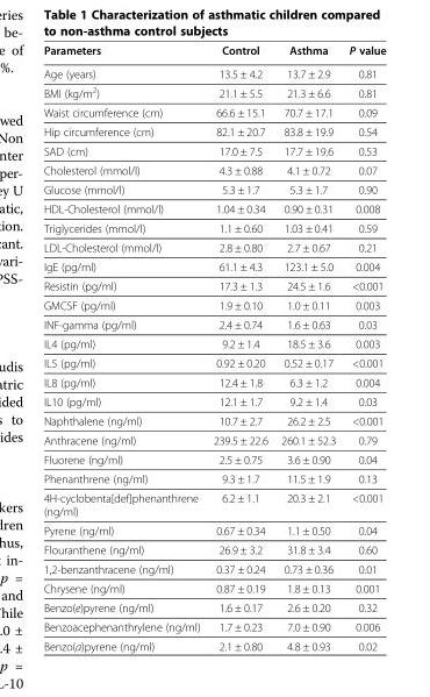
<table><thead><tr><td>Parameters</td><td>Control</td><td>Asthma</td><td>P value</td></tr></thead><tbody><tr><td>Age (years)</td><td>13.5 ± 4.2</td><td>13.7 ± 2.9</td><td>0.81</td></tr><tr><td>BMI (kg/m<sup>2</sup>)</td><td>21.1 ± 5.5</td><td>21.3 ± 6.6</td><td>0.81</td></tr><tr><td>Waist circumference (cm)</td><td>66.6 ± 15.1</td><td>70.7 ± 17.1</td><td>0.09</td></tr><tr><td>Hip circumference (cm)</td><td>82.1 ± 20.7</td><td>83.8 ± 19.9</td><td>0.54</td></tr><tr><td>SAD (cm)</td><td>17.0 ± 7.5</td><td>17.7 ± 19.6</td><td>0.53</td></tr><tr><td>Cholesterol (mmol/l)</td><td>4.3 ± 0.88</td><td>4.1 ± 0.72</td><td>0.07</td></tr><tr><td>Glucose (mmol/l)</td><td>5.3 ± 1.7</td><td>5.3 ± 1.7</td><td>0.90</td></tr><tr><td>HDL-Cholesterol (mmol/l)</td><td>1.04 ± 0.34</td><td>0.90 ± 0.31</td><td>0.008</td></tr><tr><td>Triglycerides (mmol/l)</td><td>1.1 ± 0.60</td><td>1.03 ± 0.41</td><td>0.59</td></tr><tr><td>LDL-Cholesterol (mmol/l)</td><td>2.8 ± 0.80</td><td>2.7 ± 0.67</td><td>0.21</td></tr><tr><td>IgE (pg/ml)</td><td>61.1 ± 4.3</td><td>123.1 ± 5.0</td><td>0.004</td></tr><tr><td>Resistin (pg/ml)</td><td>17.3 ± 1.3</td><td>24.5 ± 1.6</td><td>&lt;0.001</td></tr><tr><td>GMCSF (pg/ml)</td><td>1.9 ± 0.10</td><td>1.0 ± 0.11</td><td>0.003</td></tr><tr><td>INF-gamma (pg/ml)</td><td>2.4 ± 0.74</td><td>1.6 ± 0.63</td><td>0.03</td></tr><tr><td>IL4 (pg/ml)</td><td>9.2 ± 1.4</td><td>18.5 ± 3.6</td><td>0.003</td></tr><tr><td>IL5 (pg/ml)</td><td>0.92 ± 0.20</td><td>0.52 ± 0.17</td><td>&lt;0.001</td></tr><tr><td>IL8 (pg/ml)</td><td>12.4 ± 1.8</td><td>6.3 ± 1.2</td><td>0.004</td></tr><tr><td>IL10 (pg/ml)</td><td>12.1 ± 1.7</td><td>9.2 ± 1.4</td><td>0.03</td></tr><tr><td>Naphthalene (ng/ml)</td><td>10.7 ± 2.7</td><td>26.2 ± 2.5</td><td>&lt;0.001</td></tr><tr><td>Anthracene (ng/ml)</td><td>239.5 ± 22.6</td><td>260.1 ± 52.3</td><td>0.79</td></tr><tr><td>Fluorene (ng/ml)</td><td>2.5 ± 0.75</td><td>3.6 ± 0.90</td><td>0.04</td></tr><tr><td>Phenanthrene (ng/ml)</td><td>9.3 ± 1.7</td><td>11.5 ± 1.9</td><td>0.13</td></tr><tr><td>4H-cyclobenta[def]phenanthrene (ng/ml)</td><td>6.2 ± 1.1</td><td>20.3 ± 2.1</td><td>&lt;0.001</td></tr><tr><td>Pyrene (ng/ml)</td><td>0.67 ± 0.34</td><td>1.1 ± 0.50</td><td>0.04</td></tr><tr><td>Flouranthene (ng/ml)</td><td>26.9 ± 3.2</td><td>31.8 ± 3.4</td><td>0.60</td></tr><tr><td>1,2-benzanthracene (ng/ml)</td><td>0.37 ± 0.24</td><td>0.73 ± 0.36</td><td>0.01</td></tr><tr><td>Chrysene (ng/ml)</td><td>0.87 ± 0.19</td><td>1.8 ± 0.13</td><td>0.001</td></tr><tr><td>Benzo(e)pyrene (ng/ml)</td><td>1.6 ± 0.17</td><td>2.6 ± 0.20</td><td>0.32</td></tr><tr><td>Benzoacephenanthrylene (ng/ml)</td><td>1.7 ± 0.23</td><td>7.0 ± 0.90</td><td>0.006</td></tr><tr><td>Benzo(a)pyrene (ng/ml)</td><td>2.1 ± 0.80</td><td>4.8 ± 0.93</td><td>0.02</td></tr></tbody></table>